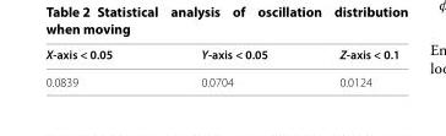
<table><thead><tr><td>X-axis &lt; 0.05</td><td>Y-axis &lt; 0.05</td><td>Z-axis &lt; 0.1</td></tr></thead><tbody><tr><td>0.0839</td><td>0.0704</td><td>0.0124</td></tr></tbody></table>